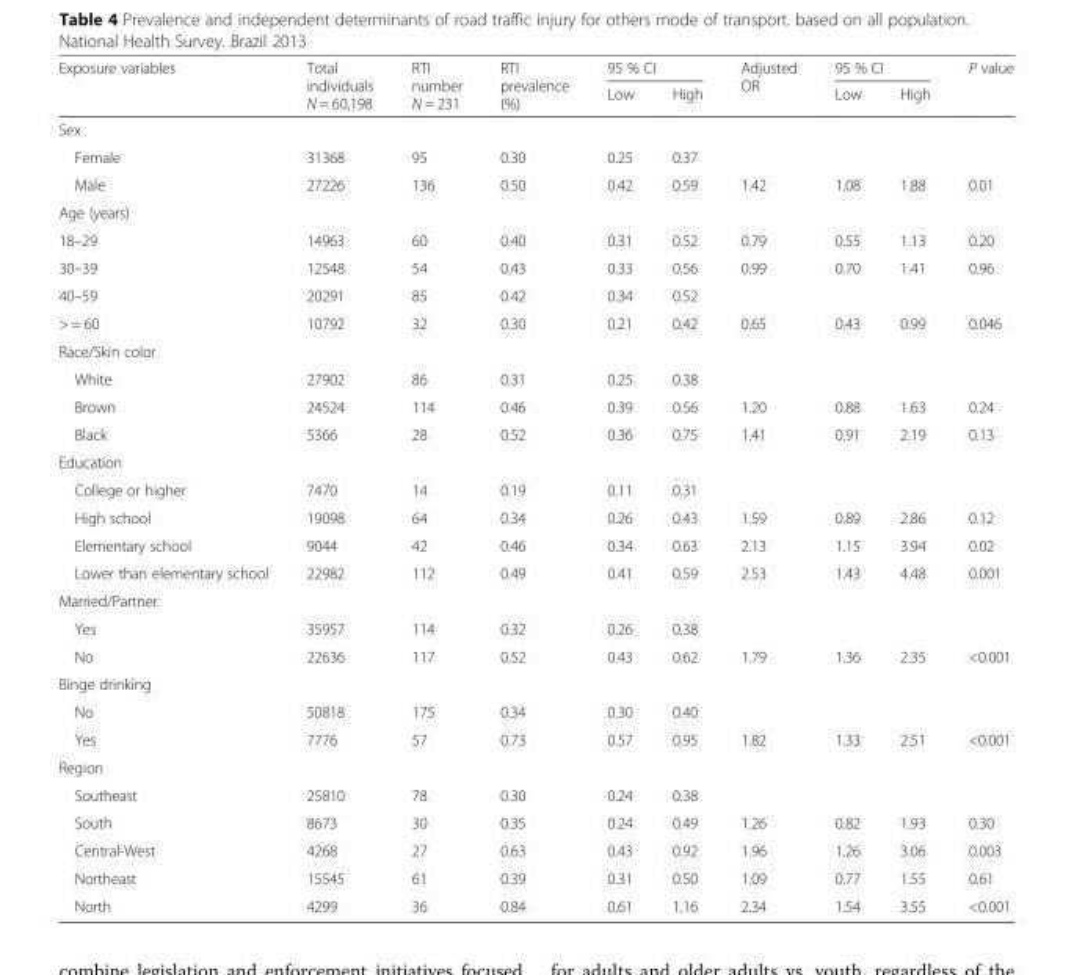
<table><thead><tr><td rowspan="2">Exposure variables</td><td rowspan="2">Total individuals N = 60,198</td><td rowspan="2">RTI number N = 231</td><td rowspan="2">RTI prevalence (%)</td><td colspan="2">95 % CI</td><td rowspan="2">Adjusted OR</td><td colspan="2">95 % CI</td><td rowspan="2">P value</td></tr><tr><td>Low</td><td>High</td><td>Low</td><td>High</td></tr></thead><tbody><tr><td colspan="10">Sex</td></tr><tr><td>Female</td><td>31368</td><td>95</td><td>0.30</td><td>0.25</td><td>0.37</td><td></td><td></td><td></td><td></td></tr><tr><td>Male</td><td>27226</td><td>136</td><td>0.50</td><td>0.42</td><td>0.59</td><td>1.42</td><td>1.08</td><td>1.88</td><td>0.01</td></tr><tr><td colspan="10">Age (years)</td></tr><tr><td>18–29</td><td>14963</td><td>60</td><td>0.40</td><td>0.31</td><td>0.52</td><td>0.79</td><td>0.55</td><td>1.13</td><td>0.20</td></tr><tr><td>30–39</td><td>12548</td><td>54</td><td>0.43</td><td>0.33</td><td>0.56</td><td>0.99</td><td>0.70</td><td>1.41</td><td>0.96</td></tr><tr><td>40–59</td><td>20291</td><td>85</td><td>0.42</td><td>0.34</td><td>0.52</td><td></td><td></td><td></td><td></td></tr><tr><td>&gt; = 60</td><td>10792</td><td>32</td><td>0.30</td><td>0.21</td><td>0.42</td><td>0.65</td><td>0.43</td><td>0.99</td><td>0.046</td></tr><tr><td colspan="10">Race/Skin color</td></tr><tr><td>White</td><td>27902</td><td>86</td><td>0.31</td><td>0.25</td><td>0.38</td><td></td><td></td><td></td><td></td></tr><tr><td>Brown</td><td>24524</td><td>114</td><td>0.46</td><td>0.39</td><td>0.56</td><td>1.20</td><td>0.88</td><td>1.63</td><td>0.24</td></tr><tr><td>Black</td><td>5366</td><td>28</td><td>0.52</td><td>0.36</td><td>0.75</td><td>1.41</td><td>0.91</td><td>2.19</td><td>0.13</td></tr><tr><td colspan="10">Education</td></tr><tr><td>College or higher</td><td>7470</td><td>14</td><td>0.19</td><td>0.11</td><td>0.31</td><td></td><td></td><td></td><td></td></tr><tr><td>High school</td><td>19098</td><td>64</td><td>0.34</td><td>0.26</td><td>0.43</td><td>1.59</td><td>0.89</td><td>2.86</td><td>0.12</td></tr><tr><td>Elementary school</td><td>9044</td><td>42</td><td>0.46</td><td>0.34</td><td>0.63</td><td>2.13</td><td>1.15</td><td>3.94</td><td>0.02</td></tr><tr><td>Lower than elementary school</td><td>22982</td><td>112</td><td>0.49</td><td>0.41</td><td>0.59</td><td>2.53</td><td>1.43</td><td>4.48</td><td>0.001</td></tr><tr><td colspan="10">Married/Partner</td></tr><tr><td>Yes</td><td>35957</td><td>114</td><td>0.32</td><td>0.26</td><td>0.38</td><td></td><td></td><td></td><td></td></tr><tr><td>No</td><td>22636</td><td>117</td><td>0.52</td><td>0.43</td><td>0.62</td><td>1.79</td><td>1.36</td><td>2.35</td><td>&lt;0.001</td></tr><tr><td colspan="10">Binge drinking</td></tr><tr><td>No</td><td>50818</td><td>175</td><td>0.34</td><td>0.30</td><td>0.40</td><td></td><td></td><td></td><td></td></tr><tr><td>Yes</td><td>7776</td><td>57</td><td>0.73</td><td>0.57</td><td>0.95</td><td>1.82</td><td>1.33</td><td>2.51</td><td>&lt;0.001</td></tr><tr><td colspan="10">Region</td></tr><tr><td>Southeast</td><td>25810</td><td>78</td><td>0.30</td><td>0.24</td><td>0.38</td><td></td><td></td><td></td><td></td></tr><tr><td>South</td><td>8673</td><td>30</td><td>0.35</td><td>0.24</td><td>0.49</td><td>1.26</td><td>0.82</td><td>1.93</td><td>0.30</td></tr><tr><td>Central-West</td><td>4268</td><td>27</td><td>0.63</td><td>0.43</td><td>0.92</td><td>1.96</td><td>1.26</td><td>3.06</td><td>0.003</td></tr><tr><td>Northeast</td><td>15545</td><td>61</td><td>0.39</td><td>0.31</td><td>0.50</td><td>1.09</td><td>0.77</td><td>1.55</td><td>0.61</td></tr><tr><td>North</td><td>4299</td><td>36</td><td>0.84</td><td>0.61</td><td>1.16</td><td>2.34</td><td>1.54</td><td>3.55</td><td>&lt;0.001</td></tr></tbody></table>